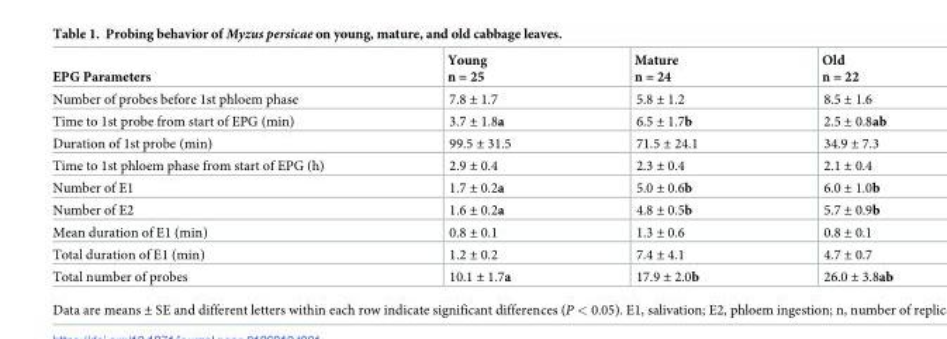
<table><thead><tr><td>EPG Parameters</td><td>Young n = 25</td><td>Mature n = 24</td><td>Old n = 22</td></tr></thead><tbody><tr><td>Number of probes before 1st phloem phase</td><td>7.8 ± 1.7</td><td>5.8 ± 1.2</td><td>8.5 ± 1.6</td></tr><tr><td>Time to 1st probe from start of EPG (min)</td><td>3.7 ± 1.8a</td><td>6.5 ± 1.7b</td><td>2.5 ± 0.8ab</td></tr><tr><td>Duration of 1st probe (min)</td><td>99.5 ± 31.5</td><td>71.5 ± 24.1</td><td>34.9 ± 7.3</td></tr><tr><td>Time to 1st phloem phase from start of EPG (h)</td><td>2.9 ± 0.4</td><td>2.3 ± 0.4</td><td>2.1 ± 0.4</td></tr><tr><td>Number of E1</td><td>1.7 ± 0.2a</td><td>5.0 ± 0.6b</td><td>6.0 ± 1.0b</td></tr><tr><td>Number of E2</td><td>1.6 ± 0.2a</td><td>4.8 ± 0.5b</td><td>5.7 ± 0.9b</td></tr><tr><td>Mean duration of E1 (min)</td><td>0.8 ± 0.1</td><td>1.3 ± 0.6</td><td>0.8 ± 0.1</td></tr><tr><td>Total duration of E1 (min)</td><td>1.2 ± 0.2</td><td>7.4 ± 4.1</td><td>4.7 ± 0.7</td></tr><tr><td>Total number of probes</td><td>10.1 ± 1.7a</td><td>17.9 ± 2.0b</td><td>26.0 ± 3.8ab</td></tr></tbody></table>